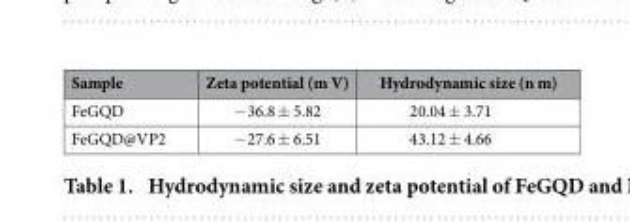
<table><thead><tr><td>Sample</td><td>Zeta potential (m V)</td><td>Hydrodynamic size (n m)</td></tr></thead><tbody><tr><td>FeGQD</td><td>− 36.8 ± 5.82</td><td>20.04 ± 3.71</td></tr><tr><td>FeGQD@VP2</td><td>− 27.6 ± 6.51</td><td>43.12 ± 4.66</td></tr></tbody></table>